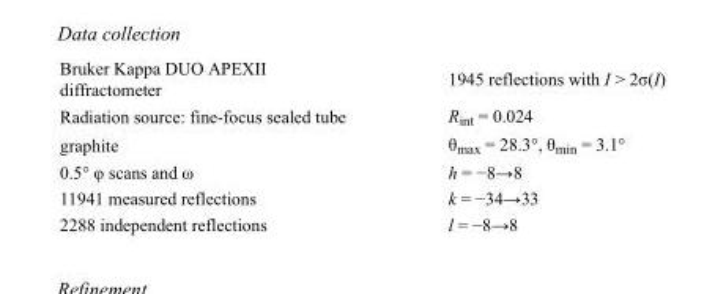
<table><tbody><tr><td>Bruker Kappa DUO APEXII diffractometer</td><td>1945 reflections with I &gt; 2σ(I)</td></tr><tr><td>Radiation source: fine-focus sealed tube</td><td>R<sub>int</sub> = 0.024</td></tr><tr><td>graphite</td><td>θ<sub>max</sub> = 28.3°, θ<sub>min</sub> = 3.1°</td></tr><tr><td>0.5° φ scans and ω</td><td>h = −8→8</td></tr><tr><td>11941 measured reflections</td><td>k = −34→33</td></tr><tr><td>2288 independent reflections</td><td>l = −8→8</td></tr></tbody></table>